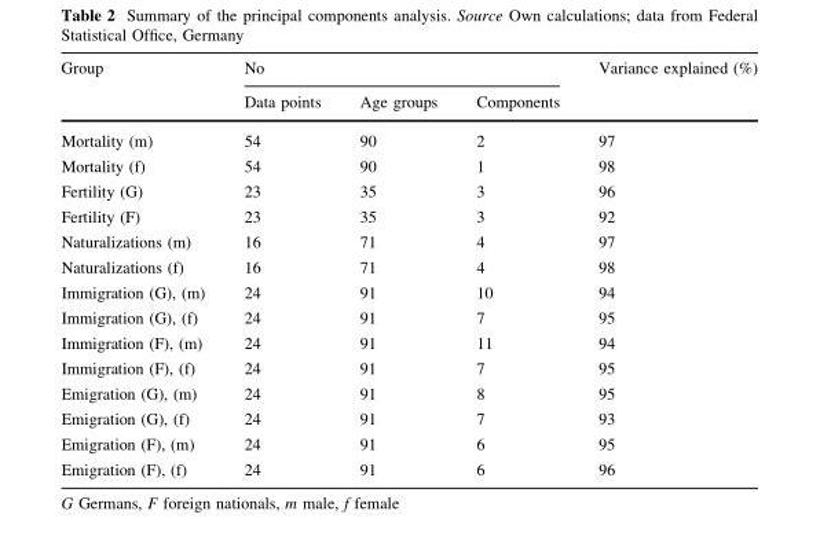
<table><thead><tr><td rowspan="2">Group</td><td colspan="3">No</td><td rowspan="2">Variance explained (%)</td></tr><tr><td>Data points</td><td>Age groups</td><td>Components</td></tr></thead><tbody><tr><td>Mortality (m)</td><td>54</td><td>90</td><td>2</td><td>97</td></tr><tr><td>Mortality (f)</td><td>54</td><td>90</td><td>1</td><td>98</td></tr><tr><td>Fertility (G)</td><td>23</td><td>35</td><td>3</td><td>96</td></tr><tr><td>Fertility (F)</td><td>23</td><td>35</td><td>3</td><td>92</td></tr><tr><td>Naturalizations (m)</td><td>16</td><td>71</td><td>4</td><td>97</td></tr><tr><td>Naturalizations (f)</td><td>16</td><td>71</td><td>4</td><td>98</td></tr><tr><td>Immigration (G), (m)</td><td>24</td><td>91</td><td>10</td><td>94</td></tr><tr><td>Immigration (G), (f)</td><td>24</td><td>91</td><td>7</td><td>95</td></tr><tr><td>Immigration (F), (m)</td><td>24</td><td>91</td><td>11</td><td>94</td></tr><tr><td>Immigration (F), (f)</td><td>24</td><td>91</td><td>7</td><td>95</td></tr><tr><td>Emigration (G), (m)</td><td>24</td><td>91</td><td>8</td><td>95</td></tr><tr><td>Emigration (G), (f)</td><td>24</td><td>91</td><td>7</td><td>93</td></tr><tr><td>Emigration (F), (m)</td><td>24</td><td>91</td><td>6</td><td>95</td></tr><tr><td>Emigration (F), (f)</td><td>24</td><td>91</td><td>6</td><td>96</td></tr></tbody></table>